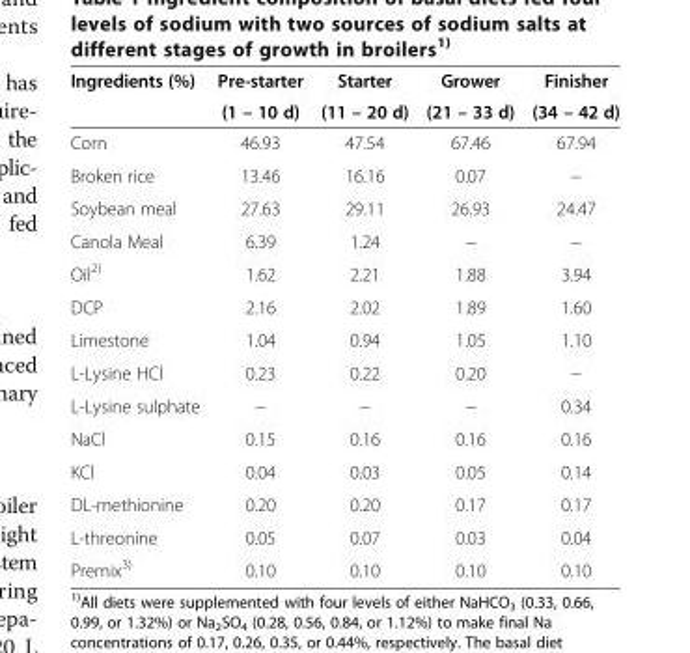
<table><thead><tr><td rowspan="2">Ingredients (%)</td><td rowspan="2">Pre-starter (1 – 10 d)</td><td rowspan="2">Starter (11 – 20 d)</td><td rowspan="2">Grower (21 – 33 d)</td><td rowspan="2">Finisher (34 – 42 d)</td></tr><tr></tr></thead><tbody><tr><td>Corn</td><td>46.93</td><td>47.54</td><td>67.46</td><td>67.94</td></tr><tr><td>Broken rice</td><td>13.46</td><td>16.16</td><td>0.07</td><td>−</td></tr><tr><td>Soybean meal</td><td>27.63</td><td>29.11</td><td>26.93</td><td>24.47</td></tr><tr><td>Canola Meal</td><td>6.39</td><td>1.24</td><td>−</td><td>−</td></tr><tr><td>Oil<sup>2)</sup></td><td>1.62</td><td>2.21</td><td>1.88</td><td>3.94</td></tr><tr><td>DCP</td><td>2.16</td><td>2.02</td><td>1.89</td><td>1.60</td></tr><tr><td>Limestone</td><td>1.04</td><td>0.94</td><td>1.05</td><td>1.10</td></tr><tr><td>L-Lysine HCl</td><td>0.23</td><td>0.22</td><td>0.20</td><td>−</td></tr><tr><td>L-Lysine sulphate</td><td>−</td><td>−</td><td>−</td><td>0.34</td></tr><tr><td>NaCl</td><td>0.15</td><td>0.16</td><td>0.16</td><td>0.16</td></tr><tr><td>KCl</td><td>0.04</td><td>0.03</td><td>0.05</td><td>0.14</td></tr><tr><td>DL-methionine</td><td>0.20</td><td>0.20</td><td>0.17</td><td>0.17</td></tr><tr><td>L-threonine</td><td>0.05</td><td>0.07</td><td>0.03</td><td>0.04</td></tr><tr><td>Premix<sup>3)</sup></td><td>0.10</td><td>0.10</td><td>0.10</td><td>0.10</td></tr></tbody></table>